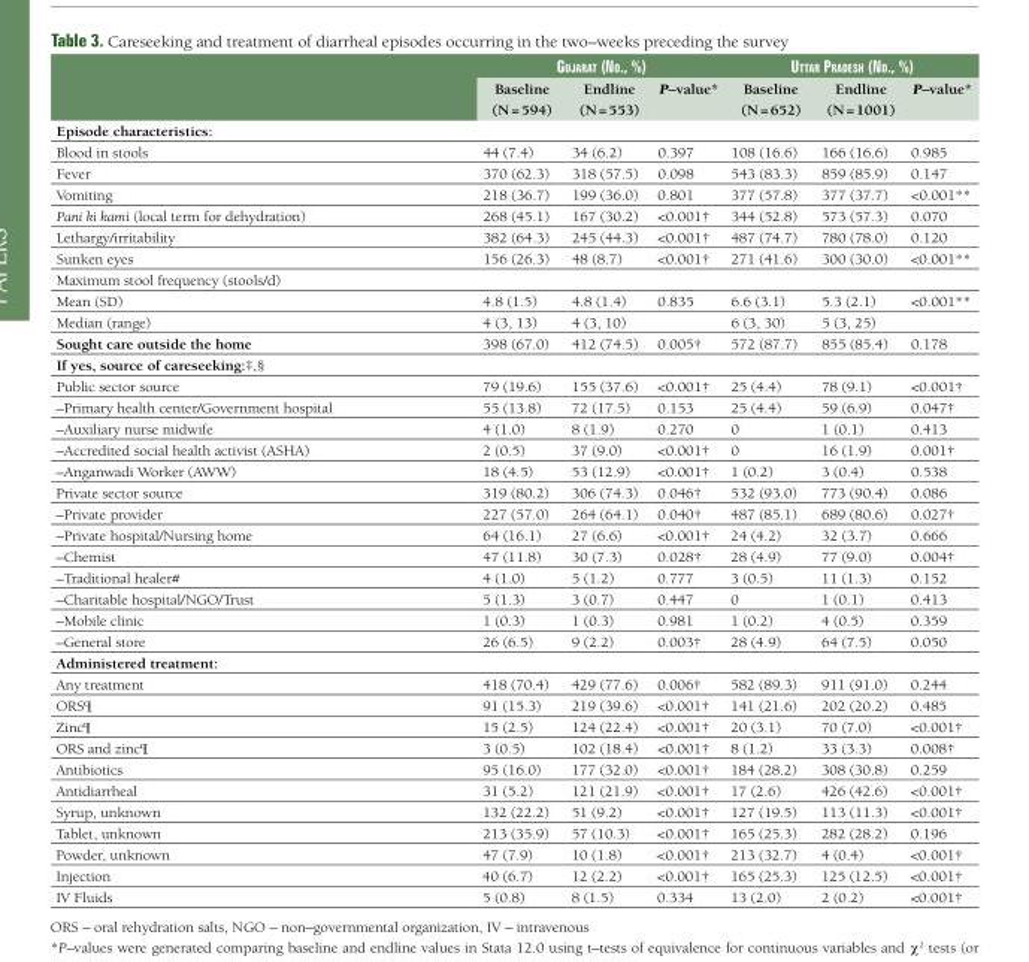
<table><thead><tr><td rowspan="2"></td><td colspan="3">Gujarat (No., %)</td><td colspan="3">uttar Pradesh (No., %)</td></tr><tr><td>Baseline (N = 594)</td><td>Endline (N = 553)</td><td>P–value*</td><td>Baseline (N = 652)</td><td>Endline (N = 1001)</td><td>P–value*</td></tr></thead><tbody><tr><td colspan="7">Episode characteristics:</td></tr><tr><td>Blood in stools</td><td>44 (7.4)</td><td>34 (6.2)</td><td>0.397</td><td>108 (16.6)</td><td>166 (16.6)</td><td>0.985</td></tr><tr><td>Fever</td><td>370 (62.3)</td><td>318 (57.5)</td><td>0.098</td><td>543 (83.3)</td><td>859 (85.9)</td><td>0.147</td></tr><tr><td>Vomiting</td><td>218 (36.7)</td><td>199 (36.0)</td><td>0.801</td><td>377 (57.8)</td><td>377 (37.7)</td><td>&lt;0.001**</td></tr><tr><td>Pani ki kami (local term for dehydration)</td><td>268 (45.1)</td><td>167 (30.2)</td><td>&lt;0.001†</td><td>344 (52.8)</td><td>573 (57.3)</td><td>0.070</td></tr><tr><td>Lethargy/irritability</td><td>382 (64.3)</td><td>245 (44.3)</td><td>&lt;0.001†</td><td>487 (74.7)</td><td>780 (78.0)</td><td>0.120</td></tr><tr><td>Sunken eyes</td><td>156 (26.3)</td><td>48 (8.7)</td><td>&lt;0.001†</td><td>271 (41.6)</td><td>300 (30.0)</td><td>&lt;0.001**</td></tr><tr><td colspan="7">Maximum stool frequency (stools/d)</td></tr><tr><td>Mean (SD)</td><td>4.8 (1.5)</td><td>4.8 (1.4)</td><td>0.835</td><td>6.6 (3.1)</td><td>5.3 (2.1)</td><td>&lt;0.001**</td></tr><tr><td>Median (range)</td><td>4 (3, 13)</td><td>4 (3, 10)</td><td></td><td>6 (3, 30)</td><td>5 (3, 25)</td><td></td></tr><tr><td>Sought care outside the home</td><td>398 (67.0)</td><td>412 (74.5)</td><td>0.005†</td><td>572 (87.7)</td><td>855 (85.4)</td><td>0.178</td></tr><tr><td colspan="7">If yes, source of careseeking:‡,§</td></tr><tr><td>Public sector source</td><td>79 (19.6)</td><td>155 (37.6)</td><td>&lt;0.001†</td><td>25 (4.4)</td><td>78 (9.1)</td><td>&lt;0.001†</td></tr><tr><td>–Primary health center/Government hospital</td><td>55 (13.8)</td><td>72 (17.5)</td><td>0.153</td><td>25 (4.4)</td><td>59 (6.9)</td><td>0.047†</td></tr><tr><td>–Auxiliary nurse midwife</td><td>4 (1.0)</td><td>8 (1.9)</td><td>0.270</td><td>0</td><td>1 (0.1)</td><td>0.413</td></tr><tr><td>–Accredited social health activist (ASHA)</td><td>2 (0.5)</td><td>37 (9.0)</td><td>&lt;0.001†</td><td>0</td><td>16 (1.9)</td><td>0.001†</td></tr><tr><td>–Anganwadi Worker (AWW)</td><td>18 (4.5)</td><td>53 (12.9)</td><td>&lt;0.001†</td><td>1 (0.2)</td><td>3 (0.4)</td><td>0.538</td></tr><tr><td>Private sector source</td><td>319 (80.2)</td><td>306 (74.3)</td><td>0.046†</td><td>532 (93.0)</td><td>773 (90.4)</td><td>0.086</td></tr><tr><td>–Private provider</td><td>227 (57.0)</td><td>264 (64.1)</td><td>0.040†</td><td>487 (85.1)</td><td>689 (80.6)</td><td>0.027†</td></tr><tr><td>–Private hospital/Nursing home</td><td>64 (16.1)</td><td>27 (6.6)</td><td>&lt;0.001†</td><td>24 (4.2)</td><td>32 (3.7)</td><td>0.666</td></tr><tr><td>–Chemist</td><td>47 (11.8)</td><td>30 (7.3)</td><td>0.028†</td><td>28 (4.9)</td><td>77 (9.0)</td><td>0.004†</td></tr><tr><td>–Traditional healer#</td><td>4 (1.0)</td><td>5 (1.2)</td><td>0.777</td><td>3 (0.5)</td><td>11 (1.3)</td><td>0.152</td></tr><tr><td>–Charitable hospital/NGO/Trust</td><td>5 (1.3)</td><td>3 (0.7)</td><td>0.447</td><td>0</td><td>1 (0.1)</td><td>0.413</td></tr><tr><td>–Mobile clinic</td><td>1 (0.3)</td><td>1 (0.3)</td><td>0.981</td><td>1 (0.2)</td><td>4 (0.5)</td><td>0.359</td></tr><tr><td>–General store</td><td>26 (6.5)</td><td>9 (2.2)</td><td>0.003†</td><td>28 (4.9)</td><td>64 (7.5)</td><td>0.050</td></tr><tr><td colspan="7">Administered treatment:</td></tr><tr><td>Any treatment</td><td>418 (70.4)</td><td>429 (77.6)</td><td>0.006†</td><td>582 (89.3)</td><td>911 (91.0)</td><td>0.244</td></tr><tr><td>ORS¶</td><td>91 (15.3)</td><td>219 (39.6)</td><td>&lt;0.001†</td><td>141 (21.6)</td><td>202 (20.2)</td><td>0.485</td></tr><tr><td>Zinc¶</td><td>15 (2.5)</td><td>124 (22.4)</td><td>&lt;0.001†</td><td>20 (3.1)</td><td>70 (7.0)</td><td>&lt;0.001†</td></tr><tr><td>ORS and zinc¶</td><td>3 (0.5)</td><td>102 (18.4)</td><td>&lt;0.001†</td><td>8 (1.2)</td><td>33 (3.3)</td><td>0.008†</td></tr><tr><td>Antibiotics</td><td>95 (16.0)</td><td>177 (32.0)</td><td>&lt;0.001†</td><td>184 (28.2)</td><td>308 (30.8)</td><td>0.259</td></tr><tr><td>Antidiarrheal</td><td>31 (5.2)</td><td>121 (21.9)</td><td>&lt;0.001†</td><td>17 (2.6)</td><td>426 (42.6)</td><td>&lt;0.001†</td></tr><tr><td>Syrup, unknown</td><td>132 (22.2)</td><td>51 (9.2)</td><td>&lt;0.001†</td><td>127 (19.5)</td><td>113 (11.3)</td><td>&lt;0.001†</td></tr><tr><td>Tablet, unknown</td><td>213 (35.9)</td><td>57 (10.3)</td><td>&lt;0.001†</td><td>165 (25.3)</td><td>282 (28.2)</td><td>0.196</td></tr><tr><td>Powder, unknown</td><td>47 (7.9)</td><td>10 (1.8)</td><td>&lt;0.001†</td><td>213 (32.7)</td><td>4 (0.4)</td><td>&lt;0.001†</td></tr><tr><td>Injection</td><td>40 (6.7)</td><td>12 (2.2)</td><td>&lt;0.001†</td><td>165 (25.3)</td><td>125 (12.5)</td><td>&lt;0.001†</td></tr><tr><td>IV Fluids</td><td>5 (0.8)</td><td>8 (1.5)</td><td>0.334</td><td>13 (2.0)</td><td>2 (0.2)</td><td>&lt;0.001†</td></tr></tbody></table>